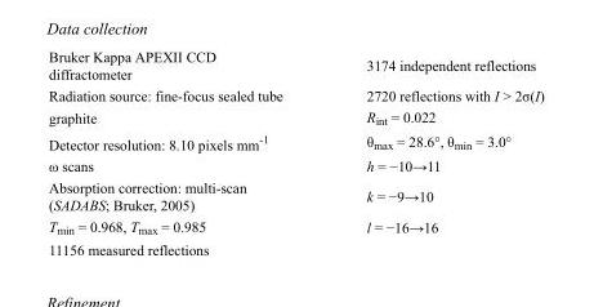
<table><tbody><tr><td>Bruker Kappa APEXII CCD diffractometer</td><td>3174 independent reflections</td></tr><tr><td>Radiation source: fine-focus sealed tube</td><td>2720 reflections with I &gt; 2σ(I)</td></tr><tr><td>graphite</td><td>R<sub>int</sub> = 0.022</td></tr><tr><td>Detector resolution: 8.10 pixels mm<sup>-1</sup></td><td>θ<sub>max</sub> = 28.6°, θ<sub>min</sub> = 3.0°</td></tr><tr><td>ω scans</td><td>h = −10→11</td></tr><tr><td>Absorption correction: multi-scan (SADABS; Bruker, 2005)</td><td>k = −9→10</td></tr><tr><td>T<sub>min</sub> = 0.968, T<sub>max</sub> = 0.985</td><td>l = −16→16</td></tr><tr><td>11156 measured reflections</td><td></td></tr></tbody></table>